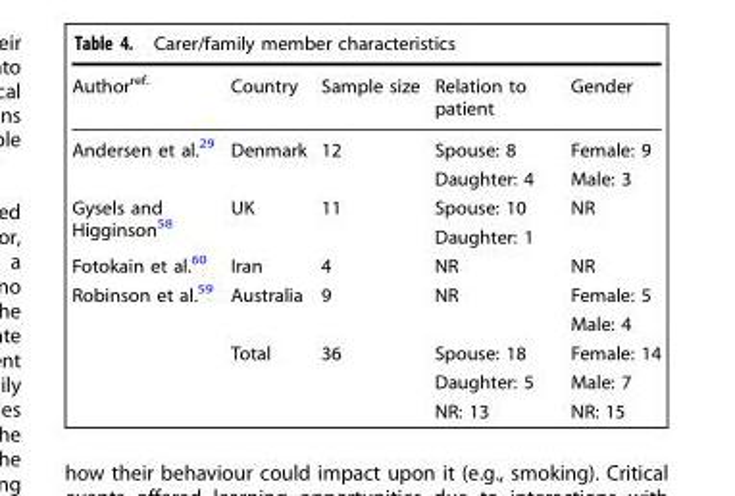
<table><thead><tr><td>Author<sup>ref.</sup></td><td>Country</td><td>Sample size</td><td>Relation to patient</td><td>Gender</td></tr></thead><tbody><tr><td rowspan="2">Andersen et al.<sup>29</sup></td><td>Denmark</td><td>12</td><td>Spouse: 8</td><td>Female: 9</td></tr><tr><td></td><td></td><td>Daughter: 4</td><td>Male: 3</td></tr><tr><td rowspan="2">Gysels and Higginson<sup>58</sup></td><td rowspan="2">UK</td><td rowspan="2">11</td><td>Spouse: 10</td><td rowspan="2">NR</td></tr><tr><td>Daughter: 1</td></tr><tr><td>Fotokain et al.<sup>60</sup></td><td>Iran</td><td>4</td><td>NR</td><td>NR</td></tr><tr><td rowspan="5">Robinson et al.<sup>59</sup></td><td>Australia</td><td>9</td><td>NR</td><td>Female: 5</td></tr><tr><td></td><td></td><td></td><td>Male: 4</td></tr><tr><td>Total</td><td>36</td><td>Spouse: 18</td><td>Female: 14</td></tr><tr><td></td><td></td><td>Daughter: 5</td><td>Male: 7</td></tr><tr><td></td><td></td><td>NR: 13</td><td>NR: 15</td></tr></tbody></table>